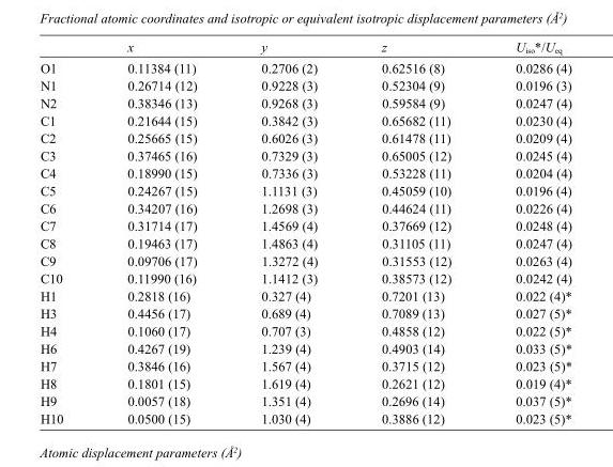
<table><thead><tr><td></td><td>x</td><td>y</td><td>z</td><td>U<sub>iso</sub>*/U<sub>eq</sub></td></tr></thead><tbody><tr><td>O1</td><td>0.11384 (11)</td><td>0.2706 (2)</td><td>0.62516 (8)</td><td>0.0286 (4)</td></tr><tr><td>N1</td><td>0.26714 (12)</td><td>0.9228 (3)</td><td>0.52304 (9)</td><td>0.0196 (3)</td></tr><tr><td>N2</td><td>0.38346 (13)</td><td>0.9268 (3)</td><td>0.59584 (9)</td><td>0.0247 (4)</td></tr><tr><td>C1</td><td>0.21644 (15)</td><td>0.3842 (3)</td><td>0.65682 (11)</td><td>0.0230 (4)</td></tr><tr><td>C2</td><td>0.25665 (15)</td><td>0.6026 (3)</td><td>0.61478 (11)</td><td>0.0209 (4)</td></tr><tr><td>C3</td><td>0.37465 (16)</td><td>0.7329 (3)</td><td>0.65005 (12)</td><td>0.0245 (4)</td></tr><tr><td>C4</td><td>0.18990 (15)</td><td>0.7336 (3)</td><td>0.53228 (11)</td><td>0.0204 (4)</td></tr><tr><td>C5</td><td>0.24267 (15)</td><td>1.1131 (3)</td><td>0.45059 (10)</td><td>0.0196 (4)</td></tr><tr><td>C6</td><td>0.34207 (16)</td><td>1.2698 (3)</td><td>0.44624 (11)</td><td>0.0226 (4)</td></tr><tr><td>C7</td><td>0.31714 (17)</td><td>1.4569 (4)</td><td>0.37669 (12)</td><td>0.0248 (4)</td></tr><tr><td>C8</td><td>0.19463 (17)</td><td>1.4863 (4)</td><td>0.31105 (11)</td><td>0.0247 (4)</td></tr><tr><td>C9</td><td>0.09706 (17)</td><td>1.3272 (4)</td><td>0.31553 (12)</td><td>0.0263 (4)</td></tr><tr><td>C10</td><td>0.11990 (16)</td><td>1.1412 (3)</td><td>0.38573 (12)</td><td>0.0242 (4)</td></tr><tr><td>H1</td><td>0.2818 (16)</td><td>0.327 (4)</td><td>0.7201 (13)</td><td>0.022 (4)*</td></tr><tr><td>H3</td><td>0.4456 (17)</td><td>0.689 (4)</td><td>0.7089 (13)</td><td>0.027 (5)*</td></tr><tr><td>H4</td><td>0.1060 (17)</td><td>0.707 (3)</td><td>0.4858 (12)</td><td>0.022 (5)*</td></tr><tr><td>H6</td><td>0.4267 (19)</td><td>1.239 (4)</td><td>0.4903 (14)</td><td>0.033 (5)*</td></tr><tr><td>H7</td><td>0.3846 (16)</td><td>1.567 (4)</td><td>0.3715 (12)</td><td>0.023 (5)*</td></tr><tr><td>H8</td><td>0.1801 (15)</td><td>1.619 (4)</td><td>0.2621 (12)</td><td>0.019 (4)*</td></tr><tr><td>H9</td><td>0.0057 (18)</td><td>1.351 (4)</td><td>0.2696 (14)</td><td>0.037 (5)*</td></tr><tr><td>H10</td><td>0.0500 (15)</td><td>1.030 (4)</td><td>0.3886 (12)</td><td>0.023 (5)*</td></tr></tbody></table>